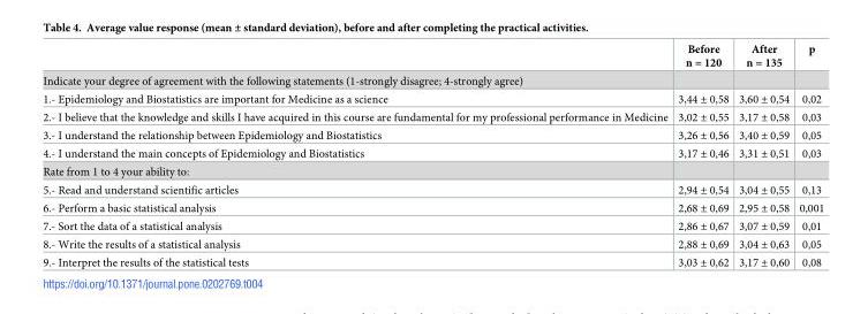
<table><thead><tr><td></td><td>Before n = 120</td><td>After n = 135</td><td>p</td></tr></thead><tbody><tr><td colspan="4">Indicate your degree of agreement with the following statements (1-strongly disagree; 4-strongly agree)</td></tr><tr><td>1.- Epidemiology and Biostatistics are important for Medicine as a science</td><td>3,44 ± 0,58</td><td>3,60 ± 0,54</td><td>0,02</td></tr><tr><td>2.- I believe that the knowledge and skills I have acquired in this course are fundamental for my professional performance in Medicine</td><td>3,02 ± 0,55</td><td>3,17 ± 0,58</td><td>0,03</td></tr><tr><td>3.- I understand the relationship between Epidemiology and Biostatistics</td><td>3,26 ± 0,56</td><td>3,40 ± 0,59</td><td>0,05</td></tr><tr><td>4.- I understand the main concepts of Epidemiology and Biostatistics</td><td>3,17 ± 0,46</td><td>3,31 ± 0,51</td><td>0,03</td></tr><tr><td colspan="4">Rate from 1 to 4 your ability to:</td></tr><tr><td>5.- Read and understand scientific articles</td><td>2,94 ± 0,54</td><td>3,04 ± 0,55</td><td>0,13</td></tr><tr><td>6.- Perform a basic statistical analysis</td><td>2,68 ± 0,69</td><td>2,95 ± 0,58</td><td>0,001</td></tr><tr><td>7.- Sort the data of a statistical analysis</td><td>2,86 ± 0,67</td><td>3,07 ± 0,59</td><td>0,01</td></tr><tr><td>8.- Write the results of a statistical analysis</td><td>2,88 ± 0,69</td><td>3,04 ± 0,63</td><td>0,05</td></tr><tr><td>9.- Interpret the results of the statistical tests</td><td>3,03 ± 0,62</td><td>3,17 ± 0,60</td><td>0,08</td></tr></tbody></table>